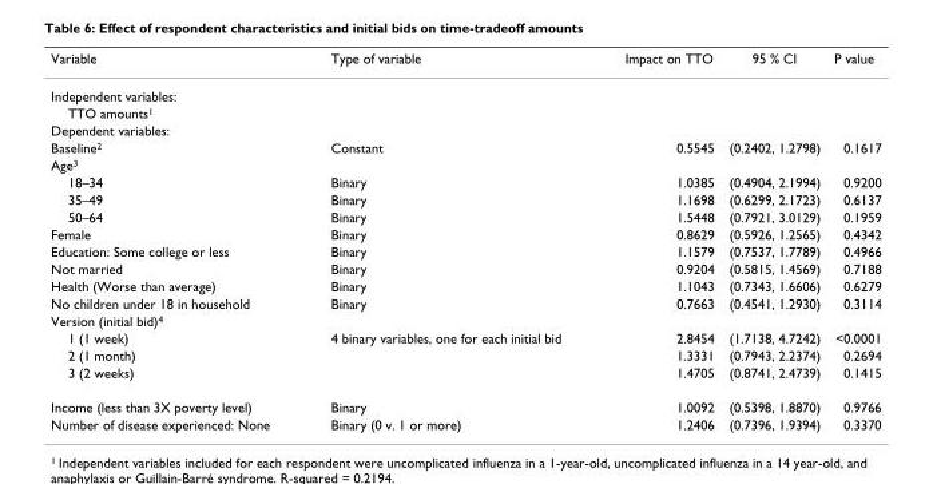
<table><thead><tr><td>Variable</td><td>Type of variable</td><td>Impact on TTO</td><td>95 % CI</td><td>P value</td></tr></thead><tbody><tr><td colspan="5">Independent variables:</td></tr><tr><td colspan="5">TTO amounts<sup>1</sup></td></tr><tr><td colspan="5">Dependent variables:</td></tr><tr><td>Baseline<sup>2</sup></td><td>Constant</td><td>0.5545</td><td>(0.2402, 1.2798)</td><td>0.1617</td></tr><tr><td colspan="5">Age<sup>3</sup></td></tr><tr><td>18–34</td><td>Binary</td><td>1.0385</td><td>(0.4904, 2.1994)</td><td>0.9200</td></tr><tr><td>35–49</td><td>Binary</td><td>1.1698</td><td>(0.6299, 2.1723)</td><td>0.6137</td></tr><tr><td>50–64</td><td>Binary</td><td>1.5448</td><td>(0.7921, 3.0129)</td><td>0.1959</td></tr><tr><td>Female</td><td>Binary</td><td>0.8629</td><td>(0.5926, 1.2565)</td><td>0.4342</td></tr><tr><td>Education: Some college or less</td><td>Binary</td><td>1.1579</td><td>(0.7537, 1.7789)</td><td>0.4966</td></tr><tr><td>Not married</td><td>Binary</td><td>0.9204</td><td>(0.5815, 1.4569)</td><td>0.7188</td></tr><tr><td>Health (Worse than average)</td><td>Binary</td><td>1.1043</td><td>(0.7343, 1.6606)</td><td>0.6279</td></tr><tr><td>No children under 18 in household</td><td>Binary</td><td>0.7663</td><td>(0.4541, 1.2930)</td><td>0.3114</td></tr><tr><td colspan="5">Version (initial bid)<sup>4</sup></td></tr><tr><td>1 (1 week)</td><td>4 binary variables, one for each initial bid</td><td>2.8454</td><td>(1.7138, 4.7242)</td><td>&lt;0.0001</td></tr><tr><td>2 (1 month)</td><td></td><td>1.3331</td><td>(0.7943, 2.2374)</td><td>0.2694</td></tr><tr><td>3 (2 weeks)</td><td></td><td>1.4705</td><td>(0.8741, 2.4739)</td><td>0.1415</td></tr><tr><td>Income (less than 3X poverty level)</td><td>Binary</td><td>1.0092</td><td>(0.5398, 1.8870)</td><td>0.9766</td></tr><tr><td>Number of disease experienced: None</td><td>Binary (0 v. 1 or more)</td><td>1.2406</td><td>(0.7396, 1.9394)</td><td>0.3370</td></tr></tbody></table>